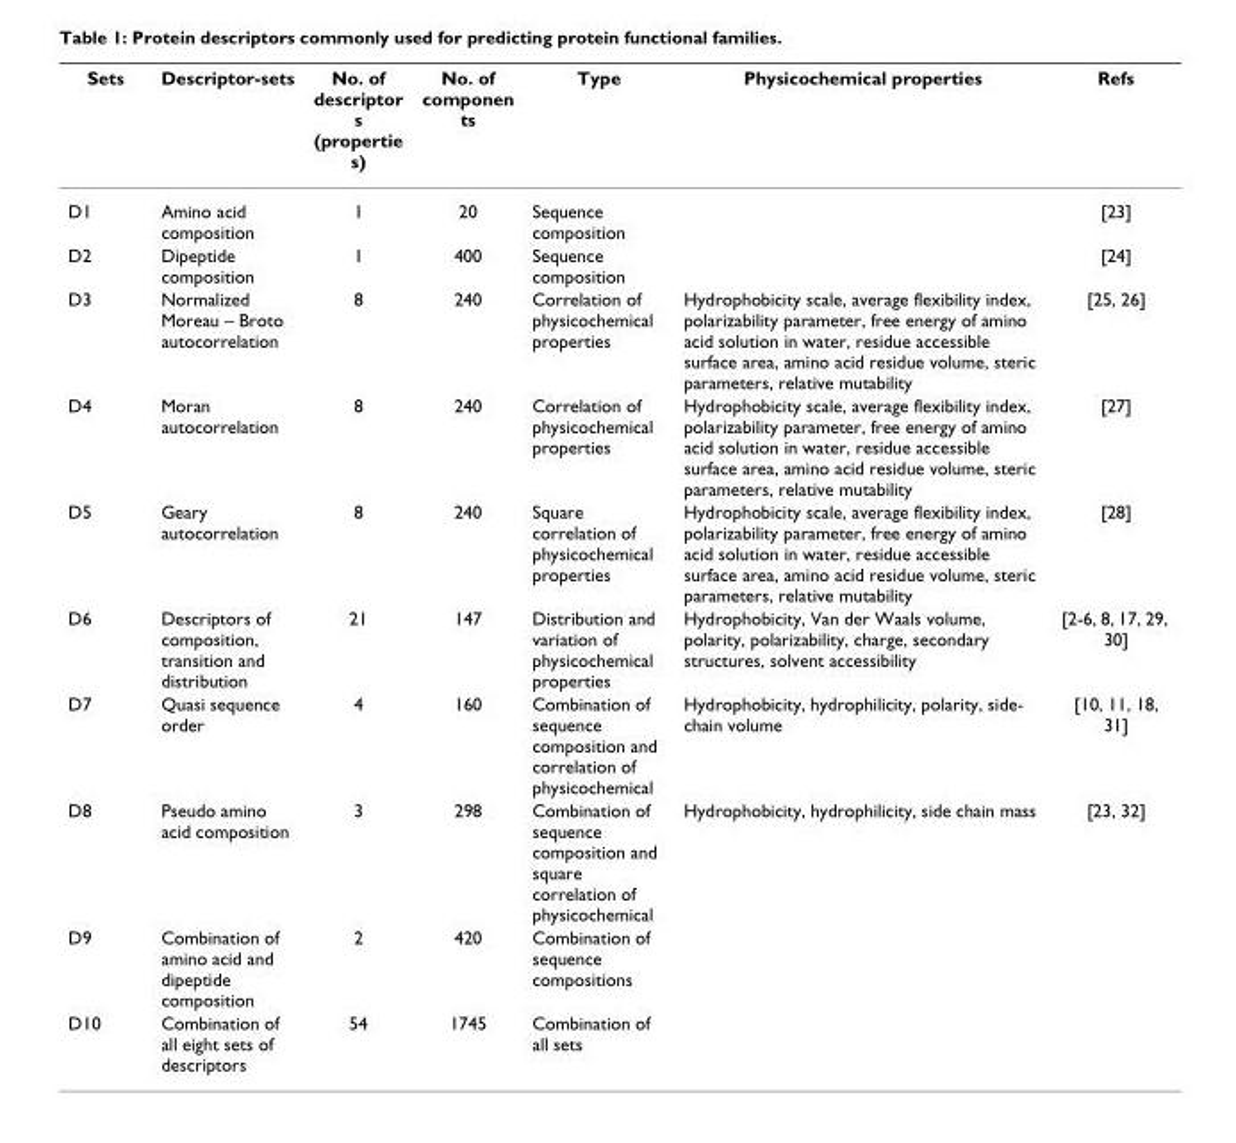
<table><thead><tr><td>Sets</td><td>Descriptor-sets</td><td>No. of descriptor s (propertie s)</td><td>No. of componen ts</td><td>Type</td><td>Physicochemical properties</td><td>Refs</td></tr></thead><tbody><tr><td>D1</td><td>Amino acid composition</td><td>1</td><td>20</td><td>Sequence composition</td><td></td><td>[23]</td></tr><tr><td>D2</td><td>Dipeptide composition</td><td>1</td><td>400</td><td>Sequence composition</td><td></td><td>[24]</td></tr><tr><td>D3</td><td>Normalized Moreau – Broto autocorrelation</td><td>8</td><td>240</td><td>Correlation of physicochemical properties</td><td>Hydrophobicity scale, average flexibility index, polarizability parameter, free energy of amino acid solution in water, residue accessible surface area, amino acid residue volume, steric parameters, relative mutability</td><td>[25, 26]</td></tr><tr><td>D4</td><td>Moran autocorrelation</td><td>8</td><td>240</td><td>Correlation of physicochemical properties</td><td>Hydrophobicity scale, average flexibility index, polarizability parameter, free energy of amino acid solution in water, residue accessible surface area, amino acid residue volume, steric parameters, relative mutability</td><td>[27]</td></tr><tr><td>D5</td><td>Geary autocorrelation</td><td>8</td><td>240</td><td>Square correlation of physicochemical properties</td><td>Hydrophobicity scale, average flexibility index, polarizability parameter, free energy of amino acid solution in water, residue accessible surface area, amino acid residue volume, steric parameters, relative mutability</td><td>[28]</td></tr><tr><td>D6</td><td>Descriptors of composition, transition and distribution</td><td>21</td><td>147</td><td>Distribution and variation of physicochemical properties</td><td>Hydrophobicity, Van der Waals volume, polarity, polarizability, charge, secondary structures, solvent accessibility</td><td>[2-6, 8, 17, 29, 30]</td></tr><tr><td>D7</td><td>Quasi sequence order</td><td>4</td><td>160</td><td>Combination of sequence composition and correlation of physicochemical</td><td>Hydrophobicity, hydrophilicity, polarity, side- chain volume</td><td>[10, 11, 18, 31]</td></tr><tr><td>D8</td><td>Pseudo amino acid composition</td><td>3</td><td>298</td><td>Combination of sequence composition and square correlation of physicochemical</td><td>Hydrophobicity, hydrophilicity, side chain mass</td><td>[23, 32]</td></tr><tr><td>D9</td><td>Combination of amino acid and dipeptide composition</td><td>2</td><td>420</td><td>Combination of sequence compositions</td><td></td><td></td></tr><tr><td>D10</td><td>Combination of all eight sets of descriptors</td><td>54</td><td>1745</td><td>Combination of all sets</td><td></td><td></td></tr></tbody></table>